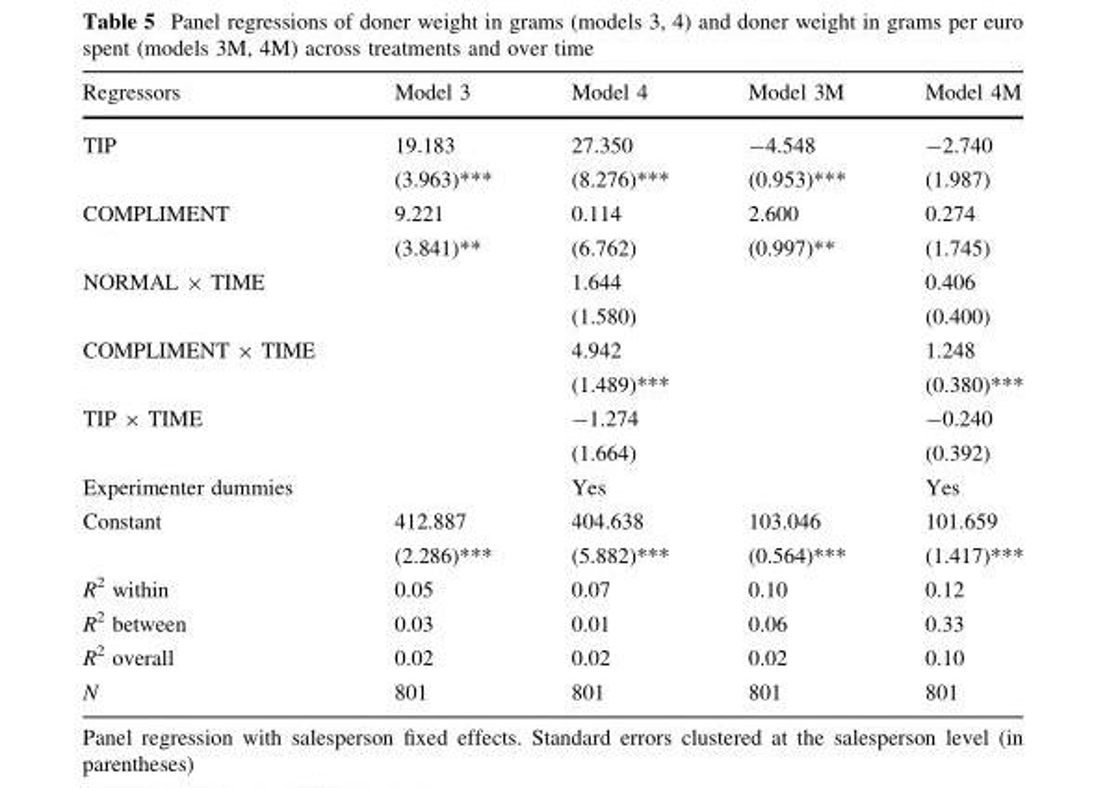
<table><thead><tr><td>Regressors</td><td>Model 3</td><td>Model 4</td><td>Model 3M</td><td>Model 4M</td></tr></thead><tbody><tr><td rowspan="2">TIP</td><td>19.183</td><td>27.350</td><td>-4.548</td><td>-2.740</td></tr><tr><td>(3.963)***</td><td>(8.276)***</td><td>(0.953)***</td><td>(1.987)</td></tr><tr><td rowspan="2">COMPLIMENT</td><td>9.221</td><td>0.114</td><td>2.600</td><td>0.274</td></tr><tr><td>(3.841)**</td><td>(6.762)</td><td>(0.997)**</td><td>(1.745)</td></tr><tr><td rowspan="2">NORMAL × TIME</td><td></td><td>1.644</td><td></td><td>0.406</td></tr><tr><td></td><td>(1.580)</td><td></td><td>(0.400)</td></tr><tr><td rowspan="2">COMPLIMENT × TIME</td><td></td><td>4.942</td><td></td><td>1.248</td></tr><tr><td></td><td>(1.489)***</td><td></td><td>(0.380)***</td></tr><tr><td rowspan="2">TIP × TIME</td><td></td><td>-1.274</td><td></td><td>-0.240</td></tr><tr><td></td><td>(1.664)</td><td></td><td>(0.392)</td></tr><tr><td>Experimenter dummies</td><td></td><td>Yes</td><td></td><td>Yes</td></tr><tr><td rowspan="2">Constant</td><td>412.887</td><td>404.638</td><td>103.046</td><td>101.659</td></tr><tr><td>(2.286)***</td><td>(5.882)***</td><td>(0.564)***</td><td>(1.417)***</td></tr><tr><td>R<sup>2</sup> within</td><td>0.05</td><td>0.07</td><td>0.10</td><td>0.12</td></tr><tr><td>R<sup>2</sup> between</td><td>0.03</td><td>0.01</td><td>0.06</td><td>0.33</td></tr><tr><td>R<sup>2</sup> overall</td><td>0.02</td><td>0.02</td><td>0.02</td><td>0.10</td></tr><tr><td>N</td><td>801</td><td>801</td><td>801</td><td>801</td></tr></tbody></table>